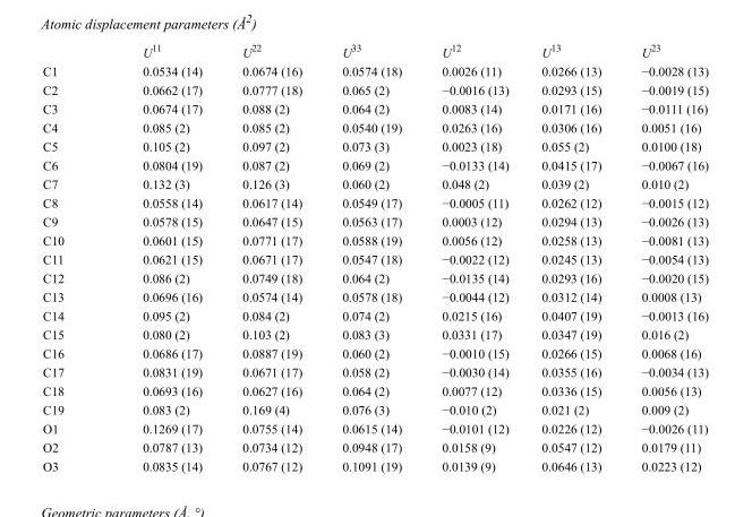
<table><thead><tr><td></td><td>U<sup>11</sup></td><td>U<sup>22</sup></td><td>U<sup>33</sup></td><td>U<sup>12</sup></td><td>U<sup>13</sup></td><td>U<sup>23</sup></td></tr></thead><tbody><tr><td>C1</td><td>0.0534 (14)</td><td>0.0674 (16)</td><td>0.0574 (18)</td><td>0.0026 (11)</td><td>0.0266 (13)</td><td>−0.0028 (13)</td></tr><tr><td>C2</td><td>0.0662 (17)</td><td>0.0777 (18)</td><td>0.065 (2)</td><td>−0.0016 (13)</td><td>0.0293 (15)</td><td>−0.0019 (15)</td></tr><tr><td>C3</td><td>0.0674 (17)</td><td>0.088 (2)</td><td>0.064 (2)</td><td>0.0083 (14)</td><td>0.0171 (16)</td><td>−0.0111 (16)</td></tr><tr><td>C4</td><td>0.085 (2)</td><td>0.085 (2)</td><td>0.0540 (19)</td><td>0.0263 (16)</td><td>0.0306 (16)</td><td>0.0051 (16)</td></tr><tr><td>C5</td><td>0.105 (2)</td><td>0.097 (2)</td><td>0.073 (3)</td><td>0.0023 (18)</td><td>0.055 (2)</td><td>0.0100 (18)</td></tr><tr><td>C6</td><td>0.0804 (19)</td><td>0.087 (2)</td><td>0.069 (2)</td><td>−0.0133 (14)</td><td>0.0415 (17)</td><td>−0.0067 (16)</td></tr><tr><td>C7</td><td>0.132 (3)</td><td>0.126 (3)</td><td>0.060 (2)</td><td>0.048 (2)</td><td>0.039 (2)</td><td>0.010 (2)</td></tr><tr><td>C8</td><td>0.0558 (14)</td><td>0.0617 (14)</td><td>0.0549 (17)</td><td>−0.0005 (11)</td><td>0.0262 (12)</td><td>−0.0015 (12)</td></tr><tr><td>C9</td><td>0.0578 (15)</td><td>0.0647 (15)</td><td>0.0563 (17)</td><td>0.0003 (12)</td><td>0.0294 (13)</td><td>−0.0026 (13)</td></tr><tr><td>C10</td><td>0.0601 (15)</td><td>0.0771 (17)</td><td>0.0588 (19)</td><td>0.0056 (12)</td><td>0.0258 (13)</td><td>−0.0081 (13)</td></tr><tr><td>C11</td><td>0.0621 (15)</td><td>0.0671 (17)</td><td>0.0547 (18)</td><td>−0.0022 (12)</td><td>0.0245 (13)</td><td>−0.0054 (13)</td></tr><tr><td>C12</td><td>0.086 (2)</td><td>0.0749 (18)</td><td>0.064 (2)</td><td>−0.0135 (14)</td><td>0.0293 (16)</td><td>−0.0020 (15)</td></tr><tr><td>C13</td><td>0.0696 (16)</td><td>0.0574 (14)</td><td>0.0578 (18)</td><td>−0.0044 (12)</td><td>0.0312 (14)</td><td>0.0008 (13)</td></tr><tr><td>C14</td><td>0.095 (2)</td><td>0.084 (2)</td><td>0.074 (2)</td><td>0.0215 (16)</td><td>0.0407 (19)</td><td>−0.0013 (16)</td></tr><tr><td>C15</td><td>0.080 (2)</td><td>0.103 (2)</td><td>0.083 (3)</td><td>0.0331 (17)</td><td>0.0347 (19)</td><td>0.016 (2)</td></tr><tr><td>C16</td><td>0.0686 (17)</td><td>0.0887 (19)</td><td>0.060 (2)</td><td>−0.0010 (15)</td><td>0.0266 (15)</td><td>0.0068 (16)</td></tr><tr><td>C17</td><td>0.0831 (19)</td><td>0.0671 (17)</td><td>0.058 (2)</td><td>−0.0030 (14)</td><td>0.0355 (16)</td><td>−0.0034 (13)</td></tr><tr><td>C18</td><td>0.0693 (16)</td><td>0.0627 (16)</td><td>0.064 (2)</td><td>0.0077 (12)</td><td>0.0336 (15)</td><td>0.0056 (13)</td></tr><tr><td>C19</td><td>0.083 (2)</td><td>0.169 (4)</td><td>0.076 (3)</td><td>−0.010 (2)</td><td>0.021 (2)</td><td>0.009 (2)</td></tr><tr><td>O1</td><td>0.1269 (17)</td><td>0.0755 (14)</td><td>0.0615 (14)</td><td>−0.0101 (12)</td><td>0.0226 (12)</td><td>−0.0026 (11)</td></tr><tr><td>O2</td><td>0.0787 (13)</td><td>0.0734 (12)</td><td>0.0948 (17)</td><td>0.0158 (9)</td><td>0.0547 (12)</td><td>0.0179 (11)</td></tr><tr><td>O3</td><td>0.0835 (14)</td><td>0.0767 (12)</td><td>0.1091 (19)</td><td>0.0139 (9)</td><td>0.0646 (13)</td><td>0.0223 (12)</td></tr></tbody></table>